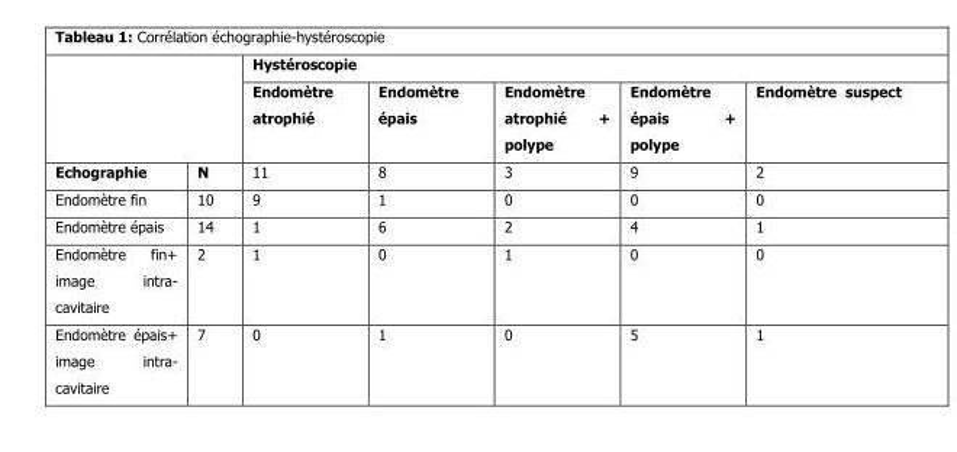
<table><thead><tr><td rowspan="2"></td><td rowspan="2"></td><td colspan="5">Hystéroscopie</td></tr><tr><td>Endomètre atrophié</td><td>Endomètre épais</td><td>Endomètre atrophié + polype</td><td>Endomètre épais + polype</td><td>Endomètre suspect</td></tr></thead><tbody><tr><td>Echographie</td><td>N</td><td>11</td><td>8</td><td>3</td><td>9</td><td>2</td></tr><tr><td>Endomètre fin</td><td>10</td><td>9</td><td>1</td><td>0</td><td>0</td><td>0</td></tr><tr><td>Endomètre épais</td><td>14</td><td>1</td><td>6</td><td>2</td><td>4</td><td>1</td></tr><tr><td>Endomètre fin+ image intra- cavitaire</td><td>2</td><td>1</td><td>0</td><td>1</td><td>0</td><td>0</td></tr><tr><td>Endomètre épais+ image intra- cavitaire</td><td>7</td><td>0</td><td>1</td><td>0</td><td>5</td><td>1</td></tr></tbody></table>